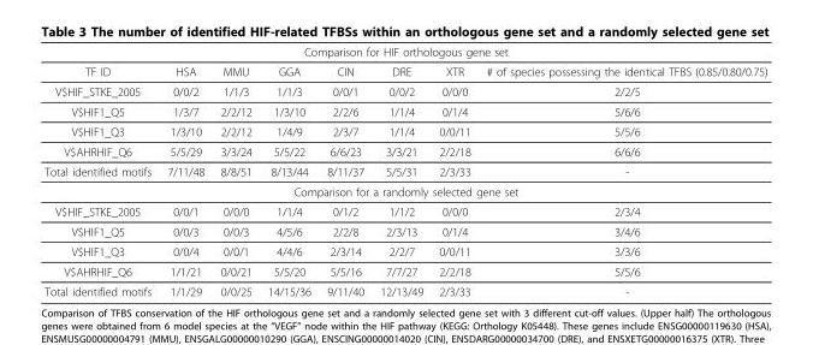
<table><thead><tr><td colspan="8">Comparison for HIF orthologous gene set</td></tr><tr><td>TF ID</td><td>HSA</td><td>MMU</td><td>GGA</td><td>CIN</td><td>DRE</td><td>XTR</td><td># of species possessing the identical TFBS (0.85/0.80/0.75)</td></tr></thead><tbody><tr><td>V$HIF_STKE_2005</td><td>0/0/2</td><td>1/1/3</td><td>1/1/3</td><td>0/0/1</td><td>0/0/2</td><td>0/0/0</td><td>2/2/5</td></tr><tr><td>V$HIF1_Q5</td><td>1/3/7</td><td>2/2/12</td><td>1/3/10</td><td>2/2/6</td><td>1/1/4</td><td>0/1/4</td><td>5/6/6</td></tr><tr><td>V$HIF1_Q3</td><td>1/3/10</td><td>2/2/12</td><td>1/4/9</td><td>2/3/7</td><td>1/1/4</td><td>0/0/11</td><td>5/5/6</td></tr><tr><td>V$AHRHIF_Q6</td><td>5/5/29</td><td>3/3/24</td><td>5/5/22</td><td>6/6/23</td><td>3/3/21</td><td>2/2/18</td><td>6/6/6</td></tr><tr><td>Total identified motifs</td><td>7/11/48</td><td>8/8/51</td><td>8/13/44</td><td>8/11/37</td><td>5/5/31</td><td>2/3/33</td><td>-</td></tr><tr><td colspan="8">Comparison for a randomly selected gene set</td></tr><tr><td>V$HIF_STKE_2005</td><td>0/0/1</td><td>0/0/0</td><td>1/1/4</td><td>0/1/2</td><td>1/1/2</td><td>0/0/0</td><td>2/3/4</td></tr><tr><td>V$HIF1_Q5</td><td>0/0/3</td><td>0/0/3</td><td>4/5/6</td><td>2/2/8</td><td>2/3/13</td><td>0/1/4</td><td>3/4/6</td></tr><tr><td>V$HIF1_Q3</td><td>0/0/4</td><td>0/0/1</td><td>4/4/6</td><td>2/3/14</td><td>2/2/7</td><td>0/0/11</td><td>3/3/6</td></tr><tr><td>V$AHRHIF_Q6</td><td>1/1/21</td><td>0/0/21</td><td>5/5/20</td><td>5/5/16</td><td>7/7/27</td><td>2/2/18</td><td>5/5/6</td></tr><tr><td>Total identified motifs</td><td>1/1/29</td><td>0/0/25</td><td>14/15/36</td><td>9/11/40</td><td>12/13/49</td><td>2/3/33</td><td>-</td></tr></tbody></table>